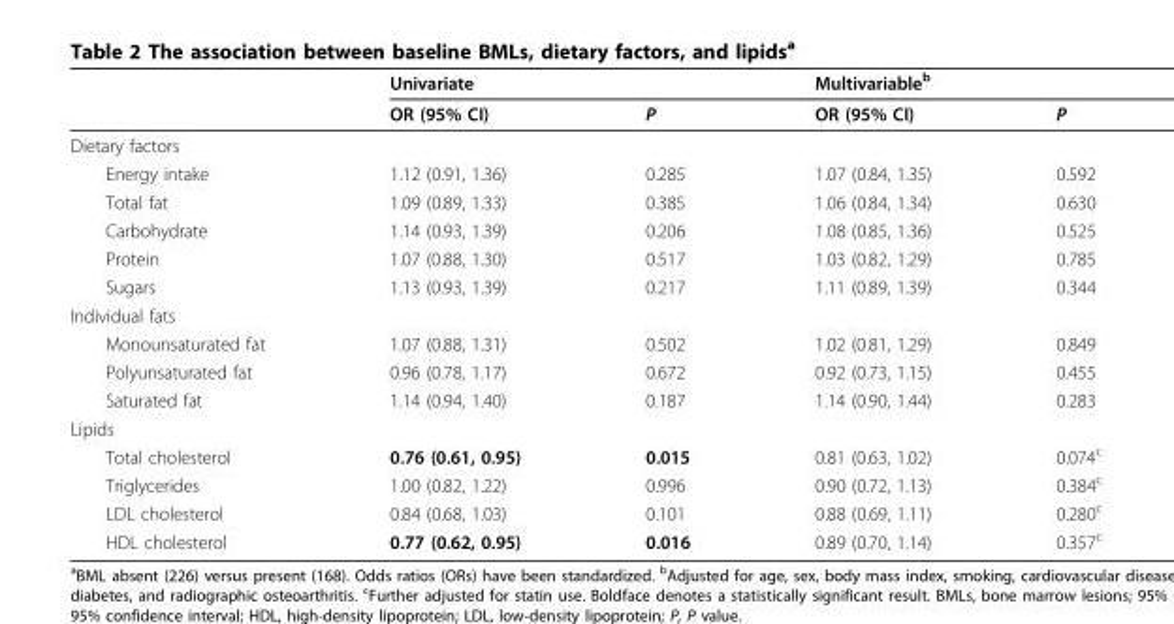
<table><thead><tr><td rowspan="2"></td><td colspan="2">Univariate</td><td colspan="2">Multivariable<sup>b</sup></td></tr><tr><td>OR (95% CI)</td><td>P</td><td>OR (95% CI)</td><td>P</td></tr></thead><tbody><tr><td colspan="5">Dietary factors</td></tr><tr><td>Energy intake</td><td>1.12 (0.91, 1.36)</td><td>0.285</td><td>1.07 (0.84, 1.35)</td><td>0.592</td></tr><tr><td>Total fat</td><td>1.09 (0.89, 1.33)</td><td>0.385</td><td>1.06 (0.84, 1.34)</td><td>0.630</td></tr><tr><td>Carbohydrate</td><td>1.14 (0.93, 1.39)</td><td>0.206</td><td>1.08 (0.85, 1.36)</td><td>0.525</td></tr><tr><td>Protein</td><td>1.07 (0.88, 1.30)</td><td>0.517</td><td>1.03 (0.82, 1.29)</td><td>0.785</td></tr><tr><td>Sugars</td><td>1.13 (0.93, 1.39)</td><td>0.217</td><td>1.11 (0.89, 1.39)</td><td>0.344</td></tr><tr><td colspan="5">Individual fats</td></tr><tr><td>Monounsaturated fat</td><td>1.07 (0.88, 1.31)</td><td>0.502</td><td>1.02 (0.81, 1.29)</td><td>0.849</td></tr><tr><td>Polyunsaturated fat</td><td>0.96 (0.78, 1.17)</td><td>0.672</td><td>0.92 (0.73, 1.15)</td><td>0.455</td></tr><tr><td>Saturated fat</td><td>1.14 (0.94, 1.40)</td><td>0.187</td><td>1.14 (0.90, 1.44)</td><td>0.283</td></tr><tr><td colspan="5">Lipids</td></tr><tr><td>Total cholesterol</td><td>0.76 (0.61, 0.95)</td><td>0.015</td><td>0.81 (0.63, 1.02)</td><td>0.074<sup>c</sup></td></tr><tr><td>Triglycerides</td><td>1.00 (0.82, 1.22)</td><td>0.996</td><td>0.90 (0.72, 1.13)</td><td>0.384<sup>c</sup></td></tr><tr><td>LDL cholesterol</td><td>0.84 (0.68, 1.03)</td><td>0.101</td><td>0.88 (0.69, 1.11)</td><td>0.280<sup>c</sup></td></tr><tr><td>HDL cholesterol</td><td>0.77 (0.62, 0.95)</td><td>0.016</td><td>0.89 (0.70, 1.14)</td><td>0.357<sup>c</sup></td></tr></tbody></table>